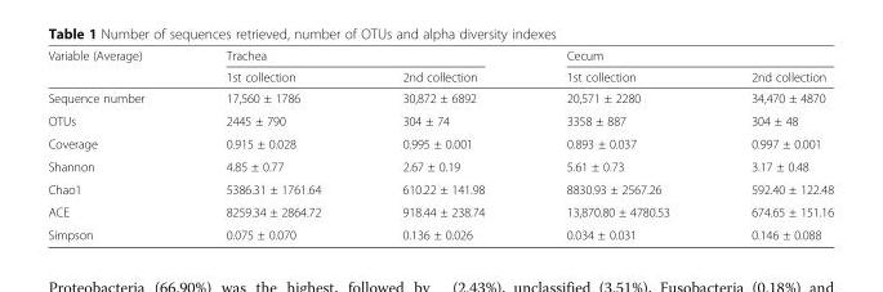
<table><thead><tr><td rowspan="2">Variable (Average)</td><td colspan="2">Trachea</td><td colspan="2">Cecum</td></tr><tr><td>1st collection</td><td>2nd collection</td><td>1st collection</td><td>2nd collection</td></tr></thead><tbody><tr><td>Sequence number</td><td>17,560 ± 1786</td><td>30,872 ± 6892</td><td>20,571 ± 2280</td><td>34,470 ± 4870</td></tr><tr><td>OTUs</td><td>2445 ± 790</td><td>304 ± 74</td><td>3358 ± 887</td><td>304 ± 48</td></tr><tr><td>Coverage</td><td>0.915 ± 0.028</td><td>0.995 ± 0.001</td><td>0.893 ± 0.037</td><td>0.997 ± 0.001</td></tr><tr><td>Shannon</td><td>4.85 ± 0.77</td><td>2.67 ± 0.19</td><td>5.61 ± 0.73</td><td>3.17 ± 0.48</td></tr><tr><td>Chao1</td><td>5386.31 ± 1761.64</td><td>610.22 ± 141.98</td><td>8830.93 ± 2567.26</td><td>592.40 ± 122.48</td></tr><tr><td>ACE</td><td>8259.34 ± 2864.72</td><td>918.44 ± 238.74</td><td>13,870.80 ± 4780.53</td><td>674.65 ± 151.16</td></tr><tr><td>Simpson</td><td>0.075 ± 0.070</td><td>0.136 ± 0.026</td><td>0.034 ± 0.031</td><td>0.146 ± 0.088</td></tr></tbody></table>